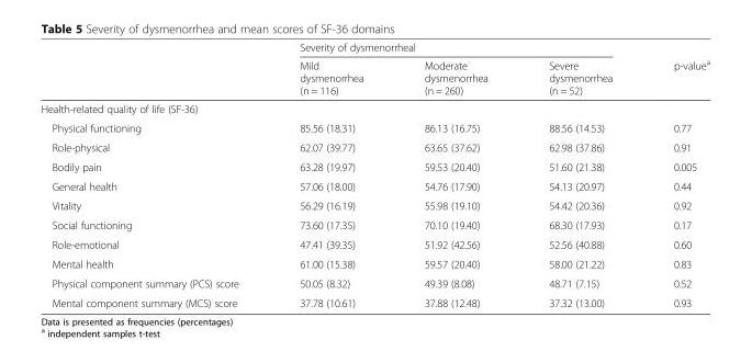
<table><thead><tr><td rowspan="2"></td><td colspan="3">Severity of dysmenorrheal</td><td rowspan="2">p-value<sup>a</sup></td></tr><tr><td>Mild dysmenorrhea (n = 116)</td><td>Moderate dysmenorrhea (n = 260)</td><td>Severe dysmenorrhea (n = 52)</td></tr></thead><tbody><tr><td colspan="5">Health-related quality of life (SF-36)</td></tr><tr><td>Physical functioning</td><td>85.56 (18.31)</td><td>86.13 (16.75)</td><td>88.56 (14.53)</td><td>0.77</td></tr><tr><td>Role-physical</td><td>62.07 (39.77)</td><td>63.65 (37.62)</td><td>62.98 (37.86)</td><td>0.91</td></tr><tr><td>Bodily pain</td><td>63.28 (19.97)</td><td>59.53 (20.40)</td><td>51.60 (21.38)</td><td>0.005</td></tr><tr><td>General health</td><td>57.06 (18.00)</td><td>54.76 (17.90)</td><td>54.13 (20.97)</td><td>0.44</td></tr><tr><td>Vitality</td><td>56.29 (16.19)</td><td>55.98 (19.10)</td><td>54.42 (20.36)</td><td>0.92</td></tr><tr><td>Social functioning</td><td>73.60 (17.35)</td><td>70.10 (19.40)</td><td>68.30 (17.93)</td><td>0.17</td></tr><tr><td>Role-emotional</td><td>47.41 (39.35)</td><td>51.92 (42.56)</td><td>52.56 (40.88)</td><td>0.60</td></tr><tr><td>Mental health</td><td>61.00 (15.38)</td><td>59.57 (20.40)</td><td>58.00 (21.22)</td><td>0.83</td></tr><tr><td>Physical component summary (PCS) score</td><td>50.05 (8.32)</td><td>49.39 (8.08)</td><td>48.71 (7.15)</td><td>0.52</td></tr><tr><td>Mental component summary (MCS) score</td><td>37.78 (10.61)</td><td>37.88 (12.48)</td><td>37.32 (13.00)</td><td>0.93</td></tr></tbody></table>